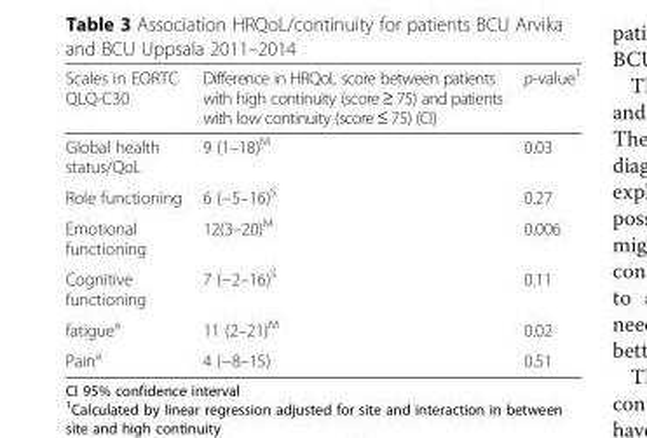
<table><thead><tr><td>Scales in EORTC QLQ-C30</td><td>Difference in HRQoL score between patients with high continuity (score ≥ 75) and patients with low continuity (score ≤ 75) (CI)</td><td>p-value<sup>1</sup></td></tr></thead><tbody><tr><td>Global health status/QoL</td><td>9 (1–18)<sup>M</sup></td><td>0.03</td></tr><tr><td>Role functioning</td><td>6 (−5–16)<sup>S</sup></td><td>0.27</td></tr><tr><td>Emotional functioning</td><td>12(3–20)<sup>M</sup></td><td>0.006</td></tr><tr><td>Cognitive functioning</td><td>7 (−2–16)<sup>S</sup></td><td>0.11</td></tr><tr><td>fatigue<sup>a</sup></td><td>11 (2–21)<sup>M</sup></td><td>0.02</td></tr><tr><td>Pain<sup>a</sup></td><td>4 (−8–15)</td><td>0.51</td></tr></tbody></table>